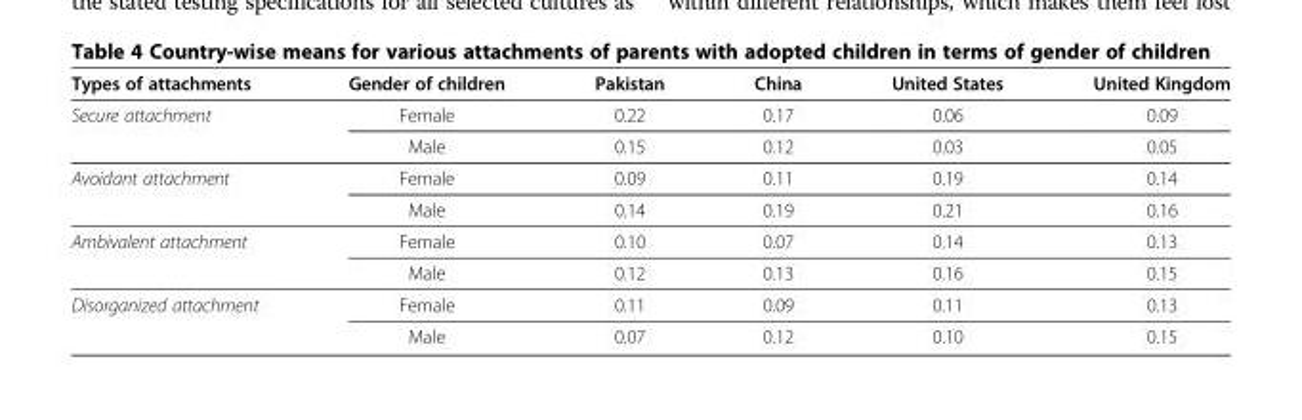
<table><thead><tr><td>Types of attachments</td><td>Gender of children</td><td>Pakistan</td><td>China</td><td>United States</td><td>United Kingdom</td></tr></thead><tbody><tr><td rowspan="2">Secure attachment</td><td>Female</td><td>0.22</td><td>0.17</td><td>0.06</td><td>0.09</td></tr><tr><td>Male</td><td>0.15</td><td>0.12</td><td>0.03</td><td>0.05</td></tr><tr><td rowspan="2">Avoidant attachment</td><td>Female</td><td>0.09</td><td>0.11</td><td>0.19</td><td>0.14</td></tr><tr><td>Male</td><td>0.14</td><td>0.19</td><td>0.21</td><td>0.16</td></tr><tr><td rowspan="2">Ambivalent attachment</td><td>Female</td><td>0.10</td><td>0.07</td><td>0.14</td><td>0.13</td></tr><tr><td>Male</td><td>0.12</td><td>0.13</td><td>0.16</td><td>0.15</td></tr><tr><td rowspan="2">Disorganized attachment</td><td>Female</td><td>0.11</td><td>0.09</td><td>0.11</td><td>0.13</td></tr><tr><td>Male</td><td>0.07</td><td>0.12</td><td>0.10</td><td>0.15</td></tr></tbody></table>